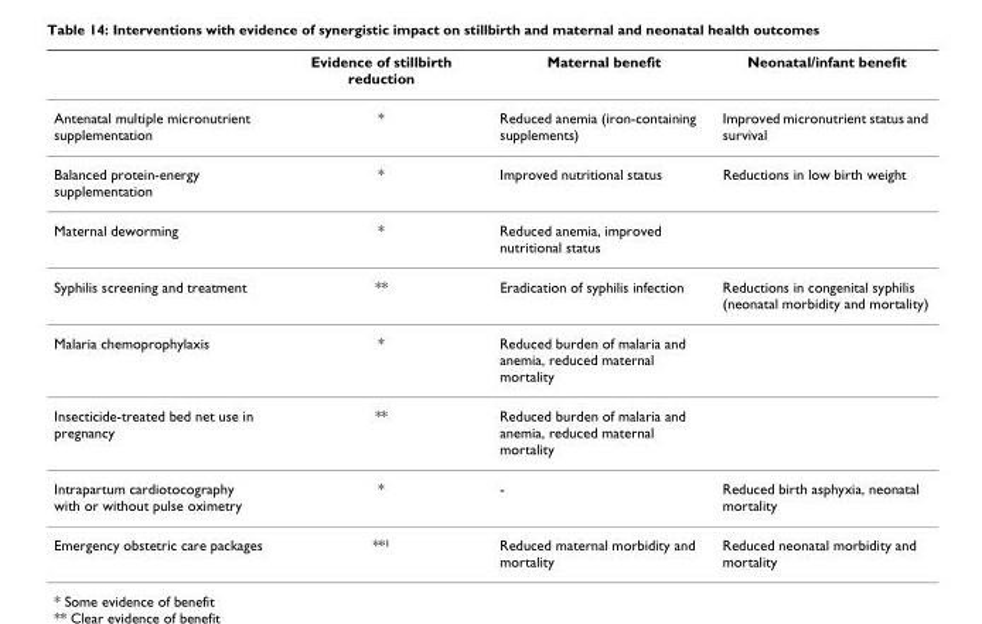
<table><thead><tr><td></td><td>Evidence of stillbirth reduction</td><td>Maternal benefit</td><td>Neonatal/infant benefit</td></tr></thead><tbody><tr><td>Antenatal multiple micronutrient supplementation</td><td>*</td><td>Reduced anemia (iron-containing supplements)</td><td>Improved micronutrient status and survival</td></tr><tr><td>Balanced protein-energy supplementation</td><td>*</td><td>Improved nutritional status</td><td>Reductions in low birth weight</td></tr><tr><td>Maternal deworming</td><td>*</td><td>Reduced anemia, improved nutritional status</td><td></td></tr><tr><td>Syphilis screening and treatment</td><td>**</td><td>Eradication of syphilis infection</td><td>Reductions in congenital syphilis (neonatal morbidity and mortality)</td></tr><tr><td>Malaria chemoprophylaxis</td><td>*</td><td>Reduced burden of malaria and anemia, reduced maternal mortality</td><td></td></tr><tr><td>Insecticide-treated bed net use in pregnancy</td><td>**</td><td>Reduced burden of malaria and anemia, reduced maternal mortality</td><td></td></tr><tr><td>Intrapartum cardiotocography with or without pulse oximetry</td><td>*</td><td>-</td><td>Reduced birth asphyxia, neonatal mortality</td></tr><tr><td>Emergency obstetric care packages</td><td>**<sup>1</sup></td><td>Reduced maternal morbidity and mortality</td><td>Reduced neonatal morbidity and mortality</td></tr></tbody></table>